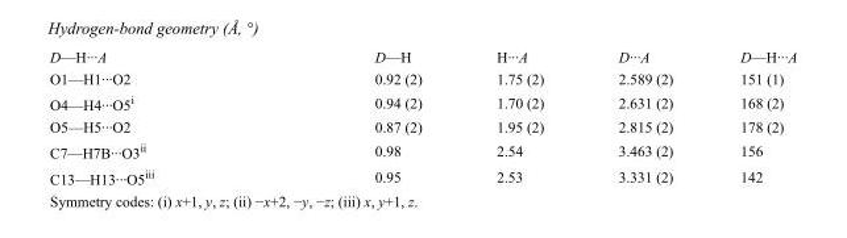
<table><tbody><tr><td>D—H···A</td><td>D—H</td><td>H···A</td><td>D···A</td><td>D—H···A</td></tr><tr><td>O1—H1···O2</td><td>0.92 (2)</td><td>1.75 (2)</td><td>2.589 (2)</td><td>151 (1)</td></tr><tr><td>O4—H4···O5<sup>i</sup></td><td>0.94 (2)</td><td>1.70 (2)</td><td>2.631 (2)</td><td>168 (2)</td></tr><tr><td>O5—H5···O2</td><td>0.87 (2)</td><td>1.95 (2)</td><td>2.815 (2)</td><td>178 (2)</td></tr><tr><td>C7—H7B···O3<sup>ii</sup></td><td>0.98</td><td>2.54</td><td>3.463 (2)</td><td>156</td></tr><tr><td>C13—H13···O5<sup>iii</sup></td><td>0.95</td><td>2.53</td><td>3.331 (2)</td><td>142</td></tr></tbody></table>